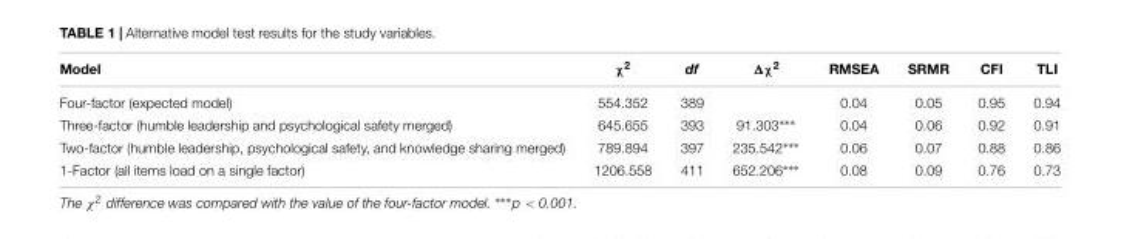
<table><thead><tr><td>Model</td><td>χ<sup>2</sup></td><td>df</td><td>Δχ<sup>2</sup></td><td>RMSEA</td><td>SRMR</td><td>CFI</td><td>TLI</td></tr></thead><tbody><tr><td>Four-factor (expected model)</td><td>554.352</td><td>389</td><td></td><td>0.04</td><td>0.05</td><td>0.95</td><td>0.94</td></tr><tr><td>Three-factor (humble leadership and psychological safety merged)</td><td>645.655</td><td>393</td><td>91.303∗∗∗</td><td>0.04</td><td>0.06</td><td>0.92</td><td>0.91</td></tr><tr><td>Two-factor (humble leadership, psychological safety, and knowledge sharing merged)</td><td>789.894</td><td>397</td><td>235.542∗∗∗</td><td>0.06</td><td>0.07</td><td>0.88</td><td>0.86</td></tr><tr><td>1-Factor (all items load on a single factor)</td><td>1206.558</td><td>411</td><td>652.206∗∗∗</td><td>0.08</td><td>0.09</td><td>0.76</td><td>0.73</td></tr></tbody></table>